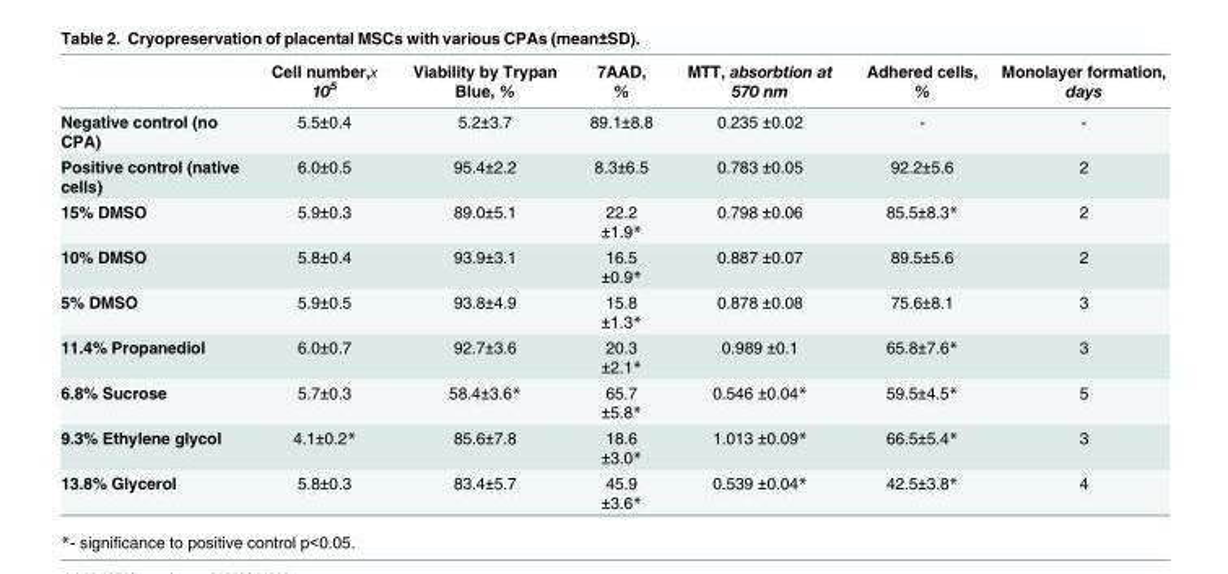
<table><thead><tr><td></td><td>Cell number,х 10<sup>5</sup></td><td>Viability by Trypan Blue, %</td><td>7AAD, %</td><td>MTT, absorbtion at 570 nm</td><td>Adhered cells, %</td><td>Monolayer formation, days</td></tr></thead><tbody><tr><td>Negative control (no CPA)</td><td>5.5±0.4</td><td>5.2±3.7</td><td>89.1±8.8</td><td>0.235 ±0.02</td><td>-</td><td>-</td></tr><tr><td>Positive control (native cells)</td><td>6.0±0.5</td><td>95.4±2.2</td><td>8.3±6.5</td><td>0.783 ±0.05</td><td>92.2±5.6</td><td>2</td></tr><tr><td>15% DMSO</td><td>5.9±0.3</td><td>89.0±5.1</td><td>22.2 ±1.9*</td><td>0.798 ±0.06</td><td>85.5±8.3*</td><td>2</td></tr><tr><td>10% DMSO</td><td>5.8±0.4</td><td>93.9±3.1</td><td>16.5 ±0.9*</td><td>0.887 ±0.07</td><td>89.5±5.6</td><td>2</td></tr><tr><td>5% DMSO</td><td>5.9±0.5</td><td>93.8±4.9</td><td>15.8 ±1.3*</td><td>0.878 ±0.08</td><td>75.6±8.1</td><td>3</td></tr><tr><td>11.4% Propanediol</td><td>6.0±0.7</td><td>92.7±3.6</td><td>20.3 ±2.1*</td><td>0.989 ±0.1</td><td>65.8±7.6*</td><td>3</td></tr><tr><td>6.8% Sucrose</td><td>5.7±0.3</td><td>58.4±3.6*</td><td>65.7 ±5.8*</td><td>0.546 ±0.04*</td><td>59.5±4.5*</td><td>5</td></tr><tr><td>9.3% Ethylene glycol</td><td>4.1±0.2*</td><td>85.6±7.8</td><td>18.6 ±3.0*</td><td>1.013 ±0.09*</td><td>66.5±5.4*</td><td>3</td></tr><tr><td>13.8% Glycerol</td><td>5.8±0.3</td><td>83.4±5.7</td><td>45.9 ±3.6*</td><td>0.539 ±0.04*</td><td>42.5±3.8*</td><td>4</td></tr></tbody></table>